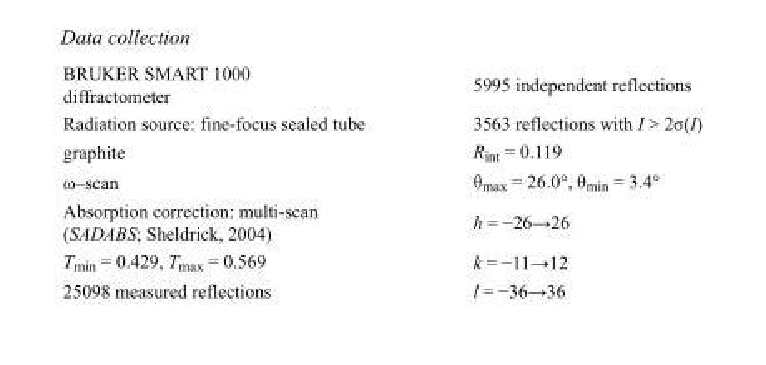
<table><tbody><tr><td>BRUKER SMART 1000 diffractometer</td><td>5995 independent reflections</td></tr><tr><td>Radiation source: fine-focus sealed tube</td><td>3563 reflections with I &gt; 2σ(I)</td></tr><tr><td>graphite</td><td>R<sub>int</sub> = 0.119</td></tr><tr><td>ω–scan</td><td>θ<sub>max</sub> = 26.0°, θ<sub>min</sub> = 3.4°</td></tr><tr><td>Absorption correction: multi-scan (SADABS; Sheldrick, 2004)</td><td>h = −26→26</td></tr><tr><td>T<sub>min</sub> = 0.429, T<sub>max</sub> = 0.569</td><td>k = −11→12</td></tr><tr><td>25098 measured reflections</td><td>l = −36→36</td></tr></tbody></table>